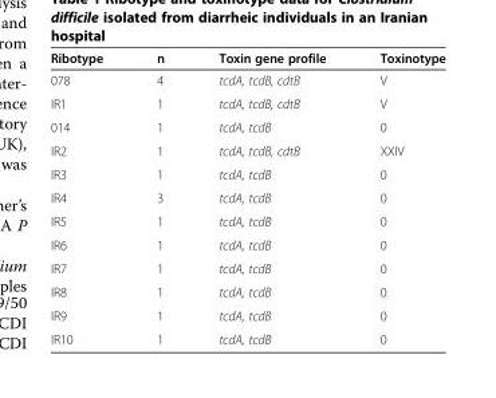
<table><thead><tr><td>Ribotype</td><td>n</td><td>Toxin gene profile</td><td>Toxinotype</td></tr></thead><tbody><tr><td>078</td><td>4</td><td>tcdA, tcdB, cdtB</td><td>V</td></tr><tr><td>IR1</td><td>1</td><td>tcdA, tcdB, cdtB</td><td>V</td></tr><tr><td>014</td><td>1</td><td>tcdA, tcdB</td><td>0</td></tr><tr><td>IR2</td><td>1</td><td>tcdA, tcdB, cdtB</td><td>XXIV</td></tr><tr><td>IR3</td><td>1</td><td>tcdA, tcdB</td><td>0</td></tr><tr><td>IR4</td><td>3</td><td>tcdA, tcdB</td><td>0</td></tr><tr><td>IR5</td><td>1</td><td>tcdA, tcdB</td><td>0</td></tr><tr><td>IR6</td><td>1</td><td>tcdA, tcdB</td><td>0</td></tr><tr><td>IR7</td><td>1</td><td>tcdA, tcdB</td><td>0</td></tr><tr><td>IR8</td><td>1</td><td>tcdA, tcdB</td><td>0</td></tr><tr><td>IR9</td><td>1</td><td>tcdA, tcdB</td><td>0</td></tr><tr><td>IR10</td><td>1</td><td>tcdA, tcdB</td><td>0</td></tr></tbody></table>